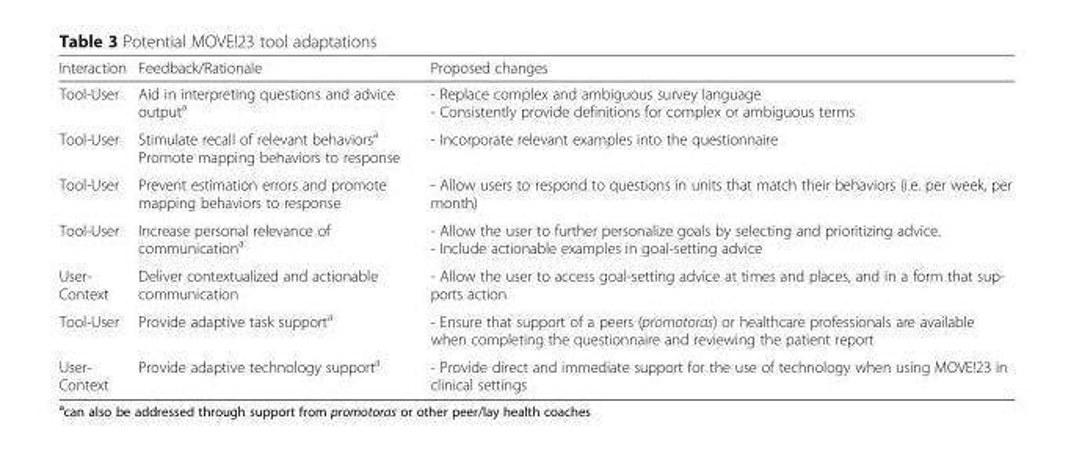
<table><thead><tr><td>Interaction</td><td>Feedback/Rationale</td><td>Proposed changes</td></tr></thead><tbody><tr><td>Tool-User</td><td>Aid in interpreting questions and advice output<sup>a</sup></td><td>- Replace complex and ambiguous survey language - Consistently provide definitions for complex or ambiguous terms</td></tr><tr><td>Tool-User</td><td>Stimulate recall of relevant behaviors<sup>a</sup> Promote mapping behaviors to response</td><td>- Incorporate relevant examples into the questionnaire</td></tr><tr><td>Tool-User</td><td>Prevent estimation errors and promote mapping behaviors to response</td><td>- Allow users to respond to questions in units that match their behaviors (i.e. per week, per month)</td></tr><tr><td>Tool-User</td><td>Increase personal relevance of communication<sup>a</sup></td><td>- Allow the user to further personalize goals by selecting and prioritizing advice. - Include actionable examples in goal-setting advice</td></tr><tr><td>User- Context</td><td>Deliver contextualized and actionable communication</td><td>- Allow the user to access goal-setting advice at times and places, and in a form that sup- ports action</td></tr><tr><td>Tool-User</td><td>Provide adaptive task support<sup>a</sup></td><td>- Ensure that support of a peers (promotoras) or healthcare professionals are available when completing the questionnaire and reviewing the patient report</td></tr><tr><td>User- Context</td><td>Provide adaptive technology support<sup>a</sup></td><td>- Provide direct and immediate support for the use of technology when using MOVE!23 in clinical settings</td></tr></tbody></table>